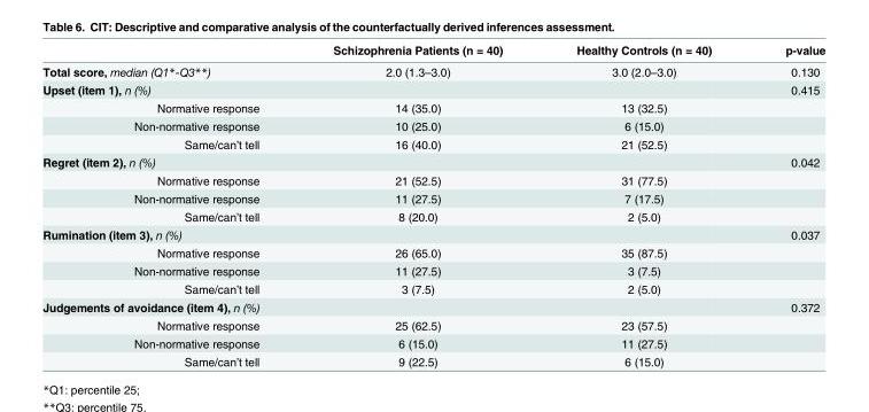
<table><thead><tr><td></td><td>Schizophrenia Patients (n = 40)</td><td>Healthy Controls (n = 40)</td><td>p-value</td></tr></thead><tbody><tr><td>Total score, median (Q1*-Q3**)</td><td>2.0 (1.3–3.0)</td><td>3.0 (2.0–3.0)</td><td>0.130</td></tr><tr><td>Upset (item 1), n (%)</td><td></td><td></td><td>0.415</td></tr><tr><td>Normative response</td><td>14 (35.0)</td><td>13 (32.5)</td><td></td></tr><tr><td>Non-normative response</td><td>10 (25.0)</td><td>6 (15.0)</td><td></td></tr><tr><td>Same/can’t tell</td><td>16 (40.0)</td><td>21 (52.5)</td><td></td></tr><tr><td>Regret (item 2), n (%)</td><td></td><td></td><td>0.042</td></tr><tr><td>Normative response</td><td>21 (52.5)</td><td>31 (77.5)</td><td></td></tr><tr><td>Non-normative response</td><td>11 (27.5)</td><td>7 (17.5)</td><td></td></tr><tr><td>Same/can’t tell</td><td>8 (20.0)</td><td>2 (5.0)</td><td></td></tr><tr><td>Rumination (item 3), n (%)</td><td></td><td></td><td>0.037</td></tr><tr><td>Normative response</td><td>26 (65.0)</td><td>35 (87.5)</td><td></td></tr><tr><td>Non-normative response</td><td>11 (27.5)</td><td>3 (7.5)</td><td></td></tr><tr><td>Same/can’t tell</td><td>3 (7.5)</td><td>2 (5.0)</td><td></td></tr><tr><td>Judgements of avoidance (item 4), n (%)</td><td></td><td></td><td>0.372</td></tr><tr><td>Normative response</td><td>25 (62.5)</td><td>23 (57.5)</td><td></td></tr><tr><td>Non-normative response</td><td>6 (15.0)</td><td>11 (27.5)</td><td></td></tr><tr><td>Same/can’t tell</td><td>9 (22.5)</td><td>6 (15.0)</td><td></td></tr></tbody></table>